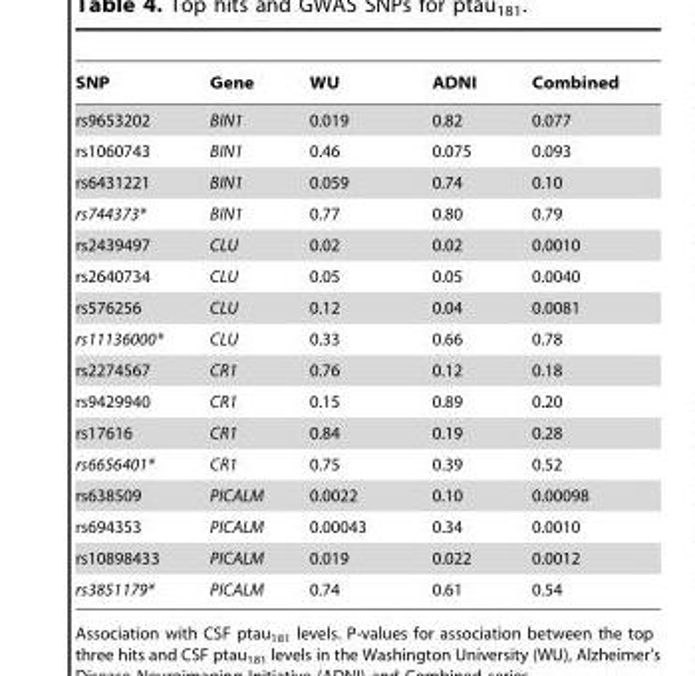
<table><thead><tr><td>SNP</td><td>Gene</td><td>WU</td><td>ADNI</td><td>Combined</td></tr></thead><tbody><tr><td>rs9653202</td><td>BIN1</td><td>0.019</td><td>0.82</td><td>0.077</td></tr><tr><td>rs1060743</td><td>BIN1</td><td>0.46</td><td>0.075</td><td>0.093</td></tr><tr><td>rs6431221</td><td>BIN1</td><td>0.059</td><td>0.74</td><td>0.10</td></tr><tr><td>rs744373*</td><td>BIN1</td><td>0.77</td><td>0.80</td><td>0.79</td></tr><tr><td>rs2439497</td><td>CLU</td><td>0.02</td><td>0.02</td><td>0.0010</td></tr><tr><td>rs2640734</td><td>CLU</td><td>0.05</td><td>0.05</td><td>0.0040</td></tr><tr><td>rs576256</td><td>CLU</td><td>0.12</td><td>0.04</td><td>0.0081</td></tr><tr><td>rs11136000*</td><td>CLU</td><td>0.33</td><td>0.66</td><td>0.78</td></tr><tr><td>rs2274567</td><td>CR1</td><td>0.76</td><td>0.12</td><td>0.18</td></tr><tr><td>rs9429940</td><td>CR1</td><td>0.15</td><td>0.89</td><td>0.20</td></tr><tr><td>rs17616</td><td>CR1</td><td>0.84</td><td>0.19</td><td>0.28</td></tr><tr><td>rs6656401*</td><td>CR1</td><td>0.75</td><td>0.39</td><td>0.52</td></tr><tr><td>rs638509</td><td>PICALM</td><td>0.0022</td><td>0.10</td><td>0.00098</td></tr><tr><td>rs694353</td><td>PICALM</td><td>0.00043</td><td>0.34</td><td>0.0010</td></tr><tr><td>rs10898433</td><td>PICALM</td><td>0.019</td><td>0.022</td><td>0.0012</td></tr><tr><td>rs3851179*</td><td>PICALM</td><td>0.74</td><td>0.61</td><td>0.54</td></tr></tbody></table>